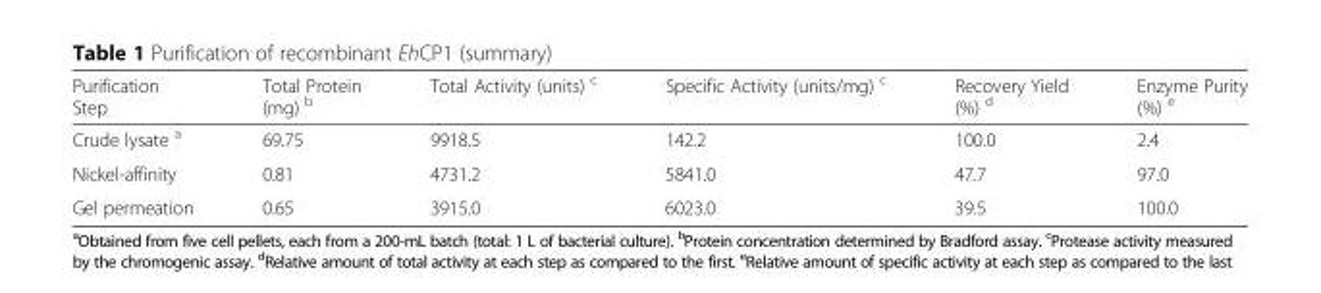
<table><thead><tr><td>Purification Step</td><td>Total Protein (mg) <sup>b</sup></td><td>Total Activity (units) <sup>c</sup></td><td>Specific Activity (units/mg) <sup>c</sup></td><td>Recovery Yield (%) <sup>d</sup></td><td>Enzyme Purity (%) <sup>e</sup></td></tr></thead><tbody><tr><td>Crude lysate <sup>a</sup></td><td>69.75</td><td>9918.5</td><td>142.2</td><td>100.0</td><td>2.4</td></tr><tr><td>Nickel-affinity</td><td>0.81</td><td>4731.2</td><td>5841.0</td><td>47.7</td><td>97.0</td></tr><tr><td>Gel permeation</td><td>0.65</td><td>3915.0</td><td>6023.0</td><td>39.5</td><td>100.0</td></tr></tbody></table>